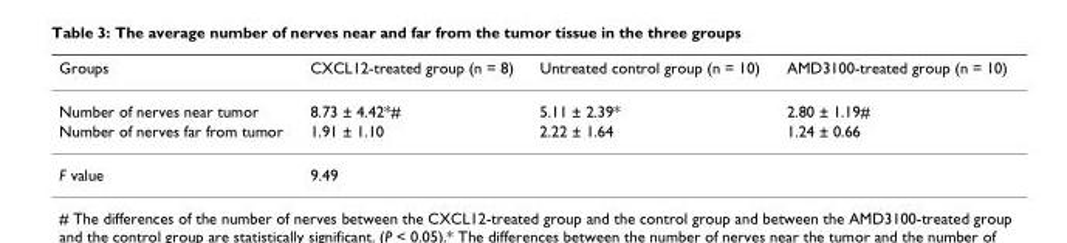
<table><thead><tr><td>Groups</td><td>CXCL12-treated group (n = 8)</td><td>Untreated control group (n = 10)</td><td>AMD3100-treated group (n = 10)</td></tr></thead><tbody><tr><td>Number of nerves near tumor</td><td>8.73 ± 4.42*#</td><td>5.11 ± 2.39*</td><td>2.80 ± 1.19#</td></tr><tr><td>Number of nerves far from tumor</td><td>1.91 ± 1.10</td><td>2.22 ± 1.64</td><td>1.24 ± 0.66</td></tr><tr><td>F value</td><td>9.49</td><td></td><td></td></tr></tbody></table>